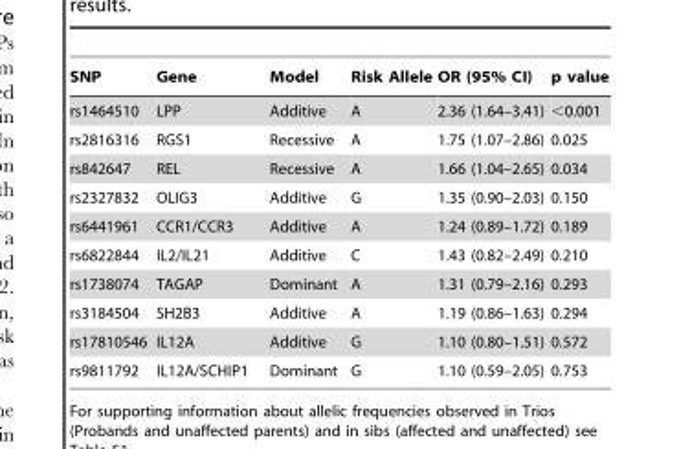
<table><thead><tr><td>SNP</td><td>Gene</td><td>Model</td><td>Risk Allele</td><td>OR (95% CI)</td><td>p value</td></tr></thead><tbody><tr><td>rs1464510</td><td>LPP</td><td>Additive</td><td>A</td><td>2.36 (1.64–3.41)</td><td>&lt;0.001</td></tr><tr><td>rs2816316</td><td>RGS1</td><td>Recessive</td><td>A</td><td>1.75 (1.07–2.86)</td><td>0.025</td></tr><tr><td>rs842647</td><td>REL</td><td>Recessive</td><td>A</td><td>1.66 (1.04–2.65)</td><td>0.034</td></tr><tr><td>rs2327832</td><td>OLIG3</td><td>Additive</td><td>G</td><td>1.35 (0.90–2.03)</td><td>0.150</td></tr><tr><td>rs6441961</td><td>CCR1/CCR3</td><td>Additive</td><td>A</td><td>1.24 (0.89–1.72)</td><td>0.189</td></tr><tr><td>rs6822844</td><td>IL2/IL21</td><td>Additive</td><td>C</td><td>1.43 (0.82–2.49)</td><td>0.210</td></tr><tr><td>rs1738074</td><td>TAGAP</td><td>Dominant</td><td>A</td><td>1.31 (0.79–2.16)</td><td>0.293</td></tr><tr><td>rs3184504</td><td>SH2B3</td><td>Additive</td><td>A</td><td>1.19 (0.86–1.63)</td><td>0.294</td></tr><tr><td>rs17810546</td><td>IL12A</td><td>Additive</td><td>G</td><td>1.10 (0.80–1.51)</td><td>0.572</td></tr><tr><td>rs9811792</td><td>IL12A/SCHIP1</td><td>Dominant</td><td>G</td><td>1.10 (0.59–2.05)</td><td>0.753</td></tr></tbody></table>